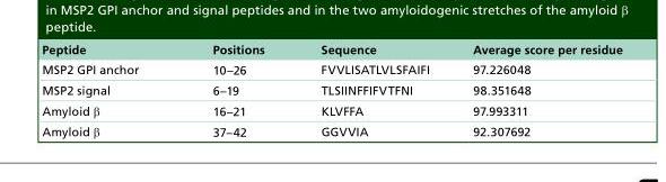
<table><thead><tr><td>Peptide</td><td>Positions</td><td>Sequence</td><td>Average score per residue</td></tr></thead><tbody><tr><td>MSP2 GPI anchor</td><td>10–26</td><td>FVVLISATLVLSFAIFI</td><td>97.226048</td></tr><tr><td>MSP2 signal</td><td>6–19</td><td>TLSIINFFIFVTFNI</td><td>98.351648</td></tr><tr><td>Amyloid β</td><td>16–21</td><td>KLVFFA</td><td>97.993311</td></tr><tr><td>Amyloid β</td><td>37–42</td><td>GGVVIA</td><td>92.307692</td></tr></tbody></table>